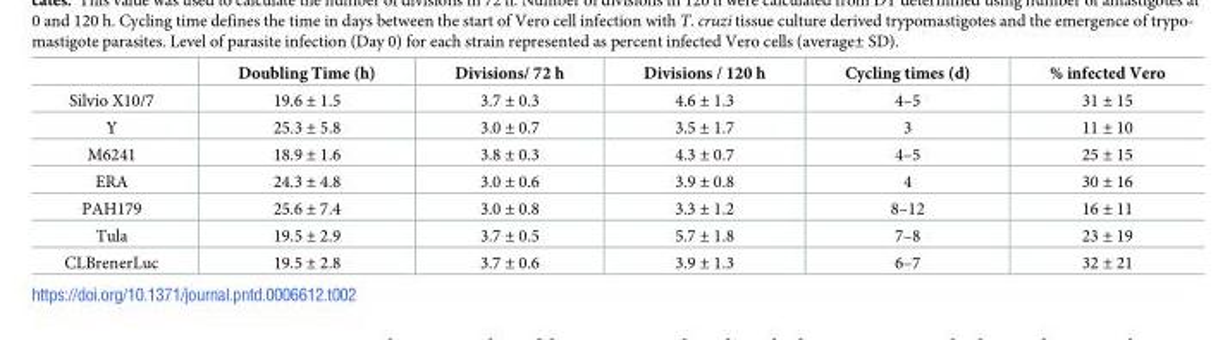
<table><thead><tr><td></td><td>Doubling Time (h)</td><td>Divisions/ 72 h</td><td>Divisions / 120 h</td><td>Cycling times (d)</td><td>% infected Vero</td></tr></thead><tbody><tr><td>Silvio X10/7</td><td>19.6 ± 1.5</td><td>3.7 ± 0.3</td><td>4.6 ± 1.3</td><td>4–5</td><td>31 ± 15</td></tr><tr><td>Y</td><td>25.3 ± 5.8</td><td>3.0 ± 0.7</td><td>3.5 ± 1.7</td><td>3</td><td>11 ± 10</td></tr><tr><td>M6241</td><td>18.9 ± 1.6</td><td>3.8 ± 0.3</td><td>4.3 ± 0.7</td><td>4–5</td><td>25 ± 15</td></tr><tr><td>ERA</td><td>24.3 ± 4.8</td><td>3.0 ± 0.6</td><td>3.9 ± 0.8</td><td>4</td><td>30 ± 16</td></tr><tr><td>PAH179</td><td>25.6 ± 7.4</td><td>3.0 ± 0.8</td><td>3.3 ± 1.2</td><td>8–12</td><td>16 ± 11</td></tr><tr><td>Tula</td><td>19.5 ± 2.9</td><td>3.7 ± 0.5</td><td>5.7 ± 1.8</td><td>7–8</td><td>23 ± 19</td></tr><tr><td>CLBrenerLuc</td><td>19.5 ± 2.8</td><td>3.7 ± 0.6</td><td>3.9 ± 1.3</td><td>6–7</td><td>32 ± 21</td></tr></tbody></table>